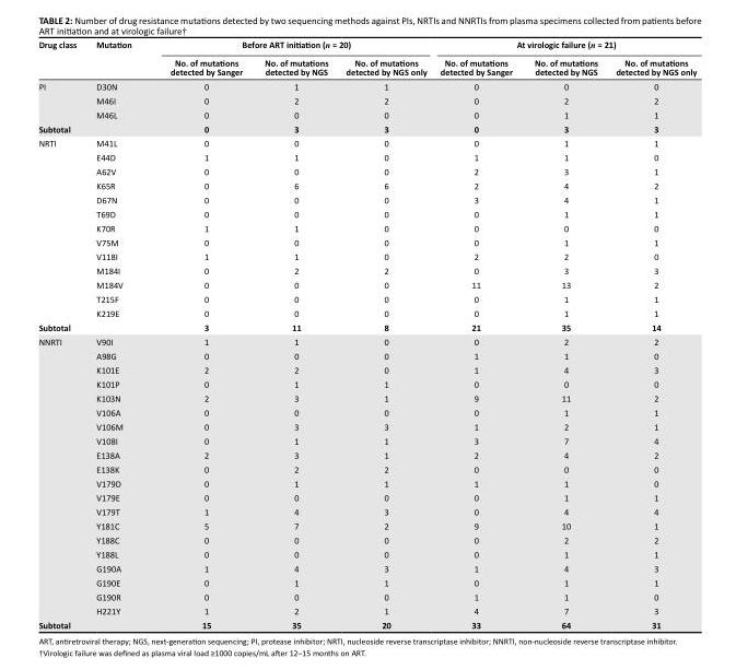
<table><thead><tr><td rowspan="2">Drug class</td><td rowspan="2">Mutation</td><td colspan="3">Before ART initiation (n = 20)</td><td colspan="3">At virologic failure (n = 21)</td></tr><tr><td>No. of mutations detected by Sanger</td><td>No. of mutations detected by NGS</td><td>No. of mutations detected by NGS only</td><td>No. of mutations detected by Sanger</td><td>No. of mutations detected by NGS</td><td>No. of mutations detected by NGS only</td></tr></thead><tbody><tr><td rowspan="3">PI</td><td>D30N</td><td>0</td><td>1</td><td>1</td><td>0</td><td>0</td><td>0</td></tr><tr><td>M46I</td><td>0</td><td>2</td><td>2</td><td>0</td><td>2</td><td>2</td></tr><tr><td>M46L</td><td>0</td><td>0</td><td>0</td><td>0</td><td>1</td><td>1</td></tr><tr><td>Subtotal</td><td></td><td>0</td><td>3</td><td>3</td><td>0</td><td>3</td><td>3</td></tr><tr><td rowspan="13">NRTI</td><td>M41L</td><td>0</td><td>0</td><td>0</td><td>0</td><td>1</td><td>1</td></tr><tr><td>E44D</td><td>1</td><td>1</td><td>0</td><td>1</td><td>1</td><td>0</td></tr><tr><td>A62V</td><td>0</td><td>0</td><td>0</td><td>2</td><td>3</td><td>1</td></tr><tr><td>K65R</td><td>0</td><td>6</td><td>6</td><td>2</td><td>4</td><td>2</td></tr><tr><td>D67N</td><td>0</td><td>0</td><td>0</td><td>3</td><td>4</td><td>1</td></tr><tr><td>T69D</td><td>0</td><td>0</td><td>0</td><td>0</td><td>1</td><td>1</td></tr><tr><td>K70R</td><td>1</td><td>1</td><td>0</td><td>0</td><td>0</td><td>0</td></tr><tr><td>V75M</td><td>0</td><td>0</td><td>0</td><td>0</td><td>1</td><td>1</td></tr><tr><td>V118I</td><td>1</td><td>1</td><td>0</td><td>2</td><td>2</td><td>0</td></tr><tr><td>M184I</td><td>0</td><td>2</td><td>2</td><td>0</td><td>3</td><td>3</td></tr><tr><td>M184V</td><td>0</td><td>0</td><td>0</td><td>11</td><td>13</td><td>2</td></tr><tr><td>T215F</td><td>0</td><td>0</td><td>0</td><td>0</td><td>1</td><td>1</td></tr><tr><td>K219E</td><td>0</td><td>0</td><td>0</td><td>0</td><td>1</td><td>1</td></tr><tr><td>Subtotal</td><td></td><td>3</td><td>11</td><td>8</td><td>21</td><td>35</td><td>14</td></tr><tr><td rowspan="20">NNRTI</td><td>V90I</td><td>1</td><td>1</td><td>0</td><td>0</td><td>2</td><td>2</td></tr><tr><td>A98G</td><td>0</td><td>0</td><td>0</td><td>1</td><td>1</td><td>0</td></tr><tr><td>K101E</td><td>2</td><td>2</td><td>0</td><td>1</td><td>4</td><td>3</td></tr><tr><td>K101P</td><td>0</td><td>1</td><td>1</td><td>0</td><td>0</td><td>0</td></tr><tr><td>K103N</td><td>2</td><td>3</td><td>1</td><td>9</td><td>11</td><td>2</td></tr><tr><td>V106A</td><td>0</td><td>0</td><td>0</td><td>0</td><td>1</td><td>1</td></tr><tr><td>V106M</td><td>0</td><td>3</td><td>3</td><td>1</td><td>2</td><td>1</td></tr><tr><td>V108I</td><td>0</td><td>1</td><td>1</td><td>3</td><td>7</td><td>4</td></tr><tr><td>E138A</td><td>2</td><td>3</td><td>1</td><td>2</td><td>4</td><td>2</td></tr><tr><td>E138K</td><td>0</td><td>2</td><td>2</td><td>0</td><td>0</td><td>0</td></tr><tr><td>V179D</td><td>0</td><td>1</td><td>1</td><td>1</td><td>1</td><td>0</td></tr><tr><td>V179E</td><td>0</td><td>0</td><td>0</td><td>0</td><td>1</td><td>1</td></tr><tr><td>V179T</td><td>1</td><td>4</td><td>3</td><td>0</td><td>4</td><td>4</td></tr><tr><td>Y181C</td><td>5</td><td>7</td><td>2</td><td>9</td><td>10</td><td>1</td></tr><tr><td>Y188C</td><td>0</td><td>0</td><td>0</td><td>0</td><td>2</td><td>2</td></tr><tr><td>Y188L</td><td>0</td><td>0</td><td>0</td><td>0</td><td>1</td><td>1</td></tr><tr><td>G190A</td><td>1</td><td>4</td><td>3</td><td>1</td><td>4</td><td>3</td></tr><tr><td>G190E</td><td>0</td><td>1</td><td>1</td><td>0</td><td>1</td><td>1</td></tr><tr><td>G190R</td><td>0</td><td>0</td><td>0</td><td>1</td><td>1</td><td>0</td></tr><tr><td>H221Y</td><td>1</td><td>2</td><td>1</td><td>4</td><td>7</td><td>3</td></tr><tr><td>Subtotal</td><td></td><td>15</td><td>35</td><td>20</td><td>33</td><td>64</td><td>31</td></tr></tbody></table>